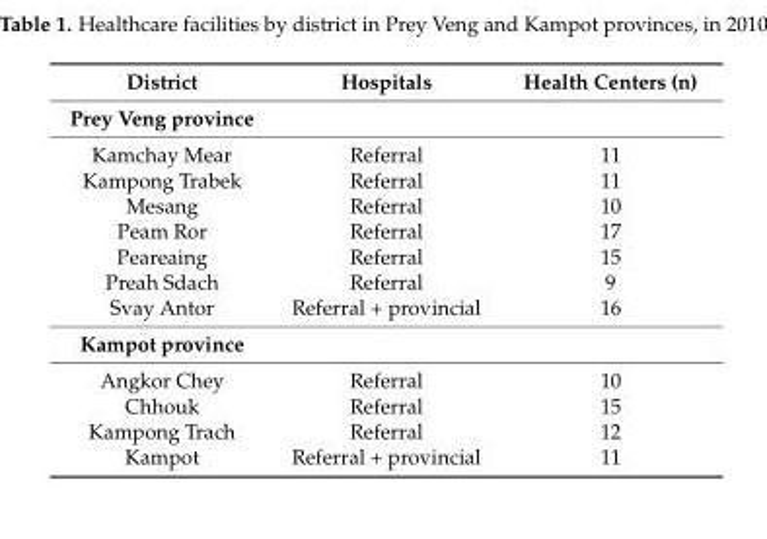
<table><thead><tr><td>District</td><td>Hospitals</td><td>Health Centers (n)</td></tr></thead><tbody><tr><td colspan="3">Prey Veng province</td></tr><tr><td>Kamchay Mear</td><td>Referral</td><td>11</td></tr><tr><td>Kampong Trabek</td><td>Referral</td><td>11</td></tr><tr><td>Mesang</td><td>Referral</td><td>10</td></tr><tr><td>Peam Ror</td><td>Referral</td><td>17</td></tr><tr><td>Peareaing</td><td>Referral</td><td>15</td></tr><tr><td>Preah Sdach</td><td>Referral</td><td>9</td></tr><tr><td>Svay Antor</td><td>Referral + provincial</td><td>16</td></tr><tr><td colspan="3">Kampot province</td></tr><tr><td>Angkor Chey</td><td>Referral</td><td>10</td></tr><tr><td>Chhouk</td><td>Referral</td><td>15</td></tr><tr><td>Kampong Trach</td><td>Referral</td><td>12</td></tr><tr><td>Kampot</td><td>Referral + provincial</td><td>11</td></tr></tbody></table>